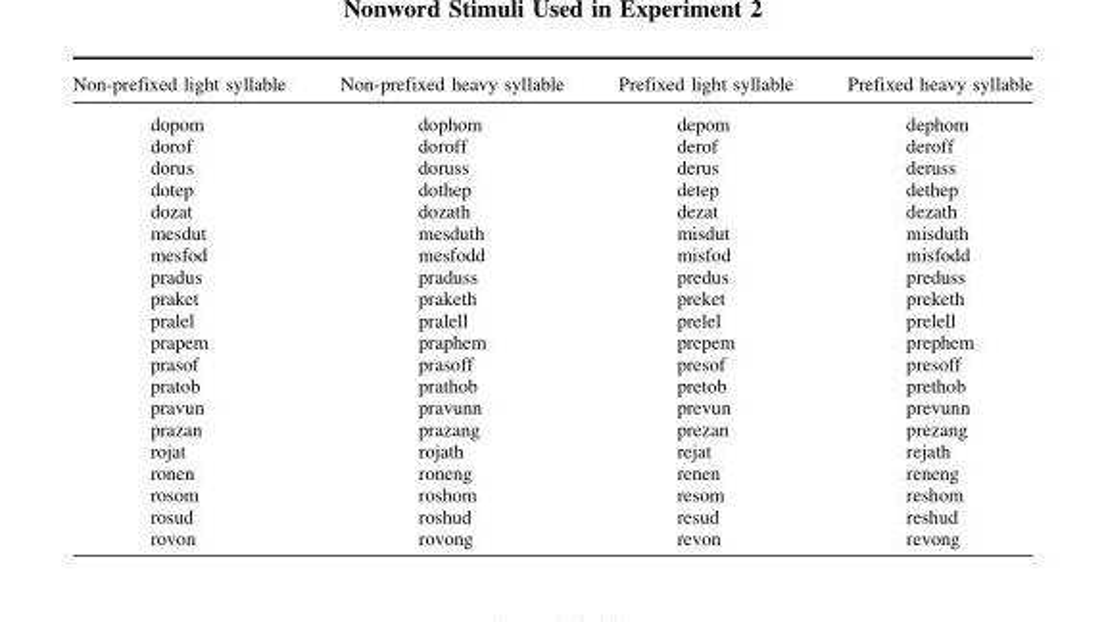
<table><thead><tr><td>Non-prefixed light syllable</td><td>Non-prefixed heavy syllable</td><td>Prefixed light syllable</td><td>Prefixed heavy syllable</td></tr></thead><tbody><tr><td>dopom</td><td>dophom</td><td>depom</td><td>dephom</td></tr><tr><td>dorof</td><td>doroff</td><td>derof</td><td>deroff</td></tr><tr><td>dorus</td><td>doruss</td><td>derus</td><td>deruss</td></tr><tr><td>dotep</td><td>dothep</td><td>detep</td><td>dethep</td></tr><tr><td>dozat</td><td>dozath</td><td>dezat</td><td>dezath</td></tr><tr><td>mesdut</td><td>mesduth</td><td>misdut</td><td>misduth</td></tr><tr><td>mesfod</td><td>mesfodd</td><td>misfod</td><td>misfodd</td></tr><tr><td>pradus</td><td>praduss</td><td>predus</td><td>preduss</td></tr><tr><td>praket</td><td>praketh</td><td>preket</td><td>preketh</td></tr><tr><td>pralel</td><td>pralell</td><td>prelel</td><td>prelell</td></tr><tr><td>prapem</td><td>praphem</td><td>prepem</td><td>prephem</td></tr><tr><td>prasof</td><td>prasoff</td><td>presof</td><td>presoff</td></tr><tr><td>pratob</td><td>prathob</td><td>pretob</td><td>prethob</td></tr><tr><td>pravun</td><td>pravunn</td><td>prevun</td><td>prevunn</td></tr><tr><td>prazan</td><td>prazang</td><td>prezan</td><td>prezang</td></tr><tr><td>rojat</td><td>rojath</td><td>rejat</td><td>rejath</td></tr><tr><td>ronen</td><td>roneng</td><td>renen</td><td>reneng</td></tr><tr><td>rosom</td><td>roshom</td><td>resom</td><td>reshom</td></tr><tr><td>rosud</td><td>roshud</td><td>resud</td><td>reshud</td></tr><tr><td>rovon</td><td>rovong</td><td>revon</td><td>revong</td></tr></tbody></table>